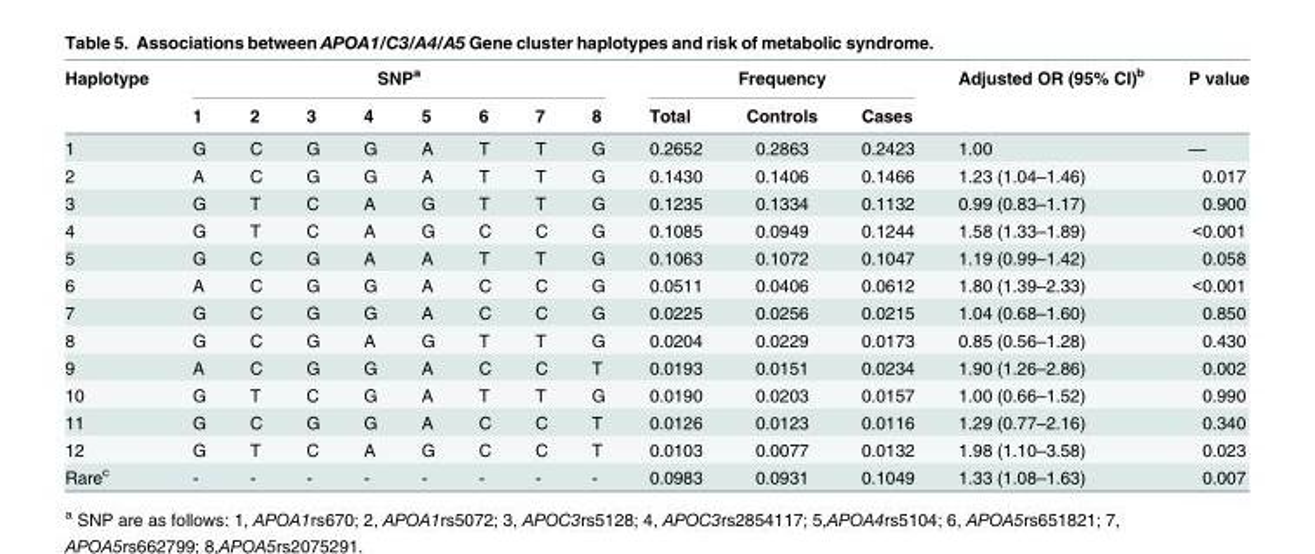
<table><thead><tr><td rowspan="2">Haplotype</td><td colspan="8">SNP<sup>a</sup></td><td colspan="3">Frequency</td><td rowspan="2">Adjusted OR (95% CI)<sup>b</sup></td><td rowspan="2">P value</td></tr><tr><td>1</td><td>2</td><td>3</td><td>4</td><td>5</td><td>6</td><td>7</td><td>8</td><td>Total</td><td>Controls</td><td>Cases</td></tr></thead><tbody><tr><td>1</td><td>G</td><td>C</td><td>G</td><td>G</td><td>A</td><td>T</td><td>T</td><td>G</td><td>0.2652</td><td>0.2863</td><td>0.2423</td><td>1.00</td><td>—</td></tr><tr><td>2</td><td>A</td><td>C</td><td>G</td><td>G</td><td>A</td><td>T</td><td>T</td><td>G</td><td>0.1430</td><td>0.1406</td><td>0.1466</td><td>1.23 (1.04–1.46)</td><td>0.017</td></tr><tr><td>3</td><td>G</td><td>T</td><td>C</td><td>A</td><td>G</td><td>T</td><td>T</td><td>G</td><td>0.1235</td><td>0.1334</td><td>0.1132</td><td>0.99 (0.83–1.17)</td><td>0.900</td></tr><tr><td>4</td><td>G</td><td>T</td><td>C</td><td>A</td><td>G</td><td>C</td><td>C</td><td>G</td><td>0.1085</td><td>0.0949</td><td>0.1244</td><td>1.58 (1.33–1.89)</td><td>&lt;0.001</td></tr><tr><td>5</td><td>G</td><td>C</td><td>G</td><td>A</td><td>A</td><td>T</td><td>T</td><td>G</td><td>0.1063</td><td>0.1072</td><td>0.1047</td><td>1.19 (0.99–1.42)</td><td>0.058</td></tr><tr><td>6</td><td>A</td><td>C</td><td>G</td><td>G</td><td>A</td><td>C</td><td>C</td><td>G</td><td>0.0511</td><td>0.0406</td><td>0.0612</td><td>1.80 (1.39–2.33)</td><td>&lt;0.001</td></tr><tr><td>7</td><td>G</td><td>C</td><td>G</td><td>G</td><td>A</td><td>C</td><td>C</td><td>G</td><td>0.0225</td><td>0.0256</td><td>0.0215</td><td>1.04 (0.68–1.60)</td><td>0.850</td></tr><tr><td>8</td><td>G</td><td>C</td><td>G</td><td>A</td><td>G</td><td>T</td><td>T</td><td>G</td><td>0.0204</td><td>0.0229</td><td>0.0173</td><td>0.85 (0.56–1.28)</td><td>0.430</td></tr><tr><td>9</td><td>A</td><td>C</td><td>G</td><td>G</td><td>A</td><td>C</td><td>C</td><td>T</td><td>0.0193</td><td>0.0151</td><td>0.0234</td><td>1.90 (1.26–2.86)</td><td>0.002</td></tr><tr><td>10</td><td>G</td><td>T</td><td>C</td><td>G</td><td>A</td><td>T</td><td>T</td><td>G</td><td>0.0190</td><td>0.0203</td><td>0.0157</td><td>1.00 (0.66–1.52)</td><td>0.990</td></tr><tr><td>11</td><td>G</td><td>C</td><td>G</td><td>G</td><td>A</td><td>C</td><td>C</td><td>T</td><td>0.0126</td><td>0.0123</td><td>0.0116</td><td>1.29 (0.77–2.16)</td><td>0.340</td></tr><tr><td>12</td><td>G</td><td>T</td><td>C</td><td>A</td><td>G</td><td>C</td><td>C</td><td>T</td><td>0.0103</td><td>0.0077</td><td>0.0132</td><td>1.98 (1.10–3.58)</td><td>0.023</td></tr><tr><td>Rare<sup>c</sup></td><td>-</td><td>-</td><td>-</td><td>-</td><td>-</td><td>-</td><td>-</td><td>-</td><td>0.0983</td><td>0.0931</td><td>0.1049</td><td>1.33 (1.08–1.63)</td><td>0.007</td></tr></tbody></table>